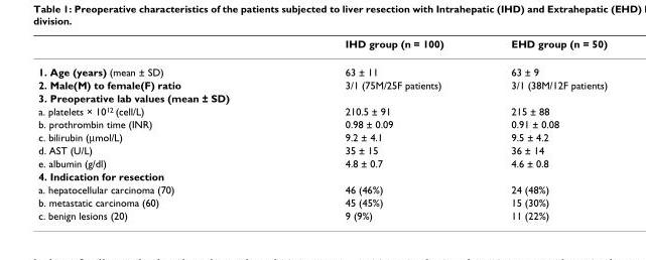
<table><thead><tr><td></td><td>IHD group (n = 100)</td><td>EHD group (n = 50)</td></tr></thead><tbody><tr><td>1. Age (years) (mean ± SD)</td><td>63 ± 11</td><td>63 ± 9</td></tr><tr><td>2. Male(M) to female(F) ratio</td><td>3/1 (75M/25F patients)</td><td>3/1 (38M/12F patients)</td></tr><tr><td colspan="3">3. Preoperative lab values (mean ± SD)</td></tr><tr><td>a. platelets × 10<sup>12</sup> (cell/L)</td><td>210.5 ± 91</td><td>215 ± 88</td></tr><tr><td>b. prothrombin time (INR)</td><td>0.98 ± 0.09</td><td>0.91 ± 0.08</td></tr><tr><td>c. bilirubin (μmol/L)</td><td>9.2 ± 4.1</td><td>9.5 ± 4.2</td></tr><tr><td>d. AST (U/L)</td><td>35 ± 15</td><td>36 ± 14</td></tr><tr><td>e. albumin (g/dl)</td><td>4.8 ± 0.7</td><td>4.6 ± 0.8</td></tr><tr><td colspan="3">4. Indication for resection</td></tr><tr><td>a. hepatocellular carcinoma (70)</td><td>46 (46%)</td><td>24 (48%)</td></tr><tr><td>b. metastatic carcinoma (60)</td><td>45 (45%)</td><td>15 (30%)</td></tr><tr><td>c. benign lesions (20)</td><td>9 (9%)</td><td>11 (22%)</td></tr></tbody></table>